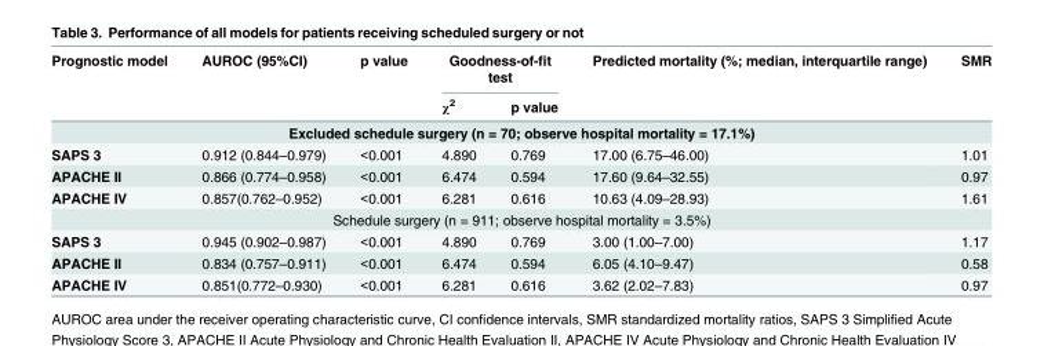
<table><thead><tr><td rowspan="2">Prognostic model</td><td rowspan="2">AUROC (95%CI)</td><td rowspan="2">p value</td><td colspan="2">Goodness-of-fit test</td><td rowspan="2">Predicted mortality (%; median, interquartile range)</td><td rowspan="2">SMR</td></tr><tr><td>χ<sup>2</sup></td><td>p value</td></tr></thead><tbody><tr><td colspan="7">Excluded schedule surgery (n = 70; observe hospital mortality = 17.1%)</td></tr><tr><td>SAPS 3</td><td>0.912 (0.844–0.979)</td><td>&lt;0.001</td><td>4.890</td><td>0.769</td><td>17.00 (6.75–46.00)</td><td>1.01</td></tr><tr><td>APACHE II</td><td>0.866 (0.774–0.958)</td><td>&lt;0.001</td><td>6.474</td><td>0.594</td><td>17.60 (9.64–32.55)</td><td>0.97</td></tr><tr><td>APACHE IV</td><td>0.857(0.762–0.952)</td><td>&lt;0.001</td><td>6.281</td><td>0.616</td><td>10.63 (4.09–28.93)</td><td>1.61</td></tr><tr><td colspan="7">Schedule surgery (n = 911; observe hospital mortality = 3.5%)</td></tr><tr><td>SAPS 3</td><td>0.945 (0.902–0.987)</td><td>&lt;0.001</td><td>4.890</td><td>0.769</td><td>3.00 (1.00–7.00)</td><td>1.17</td></tr><tr><td>APACHE II</td><td>0.834 (0.757–0.911)</td><td>&lt;0.001</td><td>6.474</td><td>0.594</td><td>6.05 (4.10–9.47)</td><td>0.58</td></tr><tr><td>APACHE IV</td><td>0.851(0.772–0.930)</td><td>&lt;0.001</td><td>6.281</td><td>0.616</td><td>3.62 (2.02–7.83)</td><td>0.97</td></tr></tbody></table>